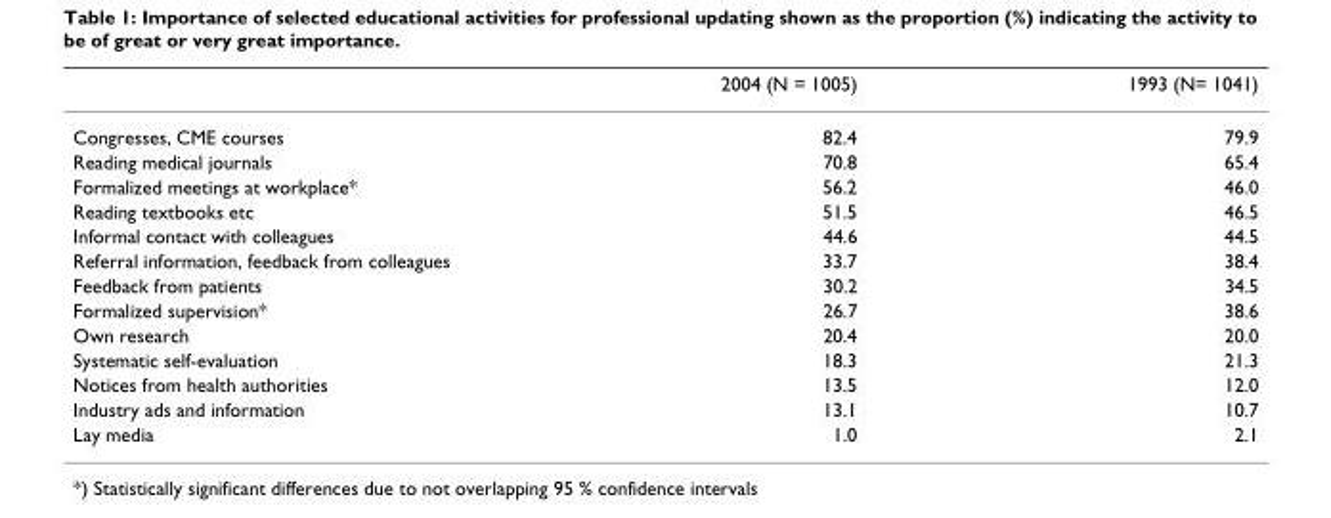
<table><thead><tr><td></td><td>2004 (N = 1005)</td><td>1993 (N= 1041)</td></tr></thead><tbody><tr><td>Congresses, CME courses</td><td>82.4</td><td>79.9</td></tr><tr><td>Reading medical journals</td><td>70.8</td><td>65.4</td></tr><tr><td>Formalized meetings at workplace*</td><td>56.2</td><td>46.0</td></tr><tr><td>Reading textbooks etc</td><td>51.5</td><td>46.5</td></tr><tr><td>Informal contact with colleagues</td><td>44.6</td><td>44.5</td></tr><tr><td>Referral information, feedback from colleagues</td><td>33.7</td><td>38.4</td></tr><tr><td>Feedback from patients</td><td>30.2</td><td>34.5</td></tr><tr><td>Formalized supervision*</td><td>26.7</td><td>38.6</td></tr><tr><td>Own research</td><td>20.4</td><td>20.0</td></tr><tr><td>Systematic self-evaluation</td><td>18.3</td><td>21.3</td></tr><tr><td>Notices from health authorities</td><td>13.5</td><td>12.0</td></tr><tr><td>Industry ads and information</td><td>13.1</td><td>10.7</td></tr><tr><td>Lay media</td><td>1.0</td><td>2.1</td></tr></tbody></table>